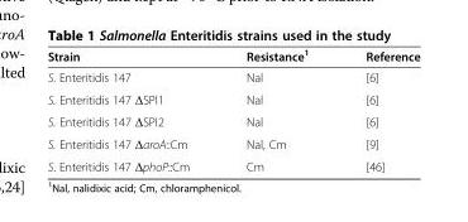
<table><thead><tr><td>Strain</td><td>Resistance<sup>1</sup></td><td>Reference</td></tr></thead><tbody><tr><td>S. Enteritidis 147</td><td>Nal</td><td>[6]</td></tr><tr><td>S. Enteritidis 147 ΔSPI1</td><td>Nal</td><td>[6]</td></tr><tr><td>S. Enteritidis 147 ΔSPI2</td><td>Nal</td><td>[6]</td></tr><tr><td>S. Enteritidis 147 ΔaroA::Cm</td><td>Nal, Cm</td><td>[9]</td></tr><tr><td>S. Enteritidis 147 ΔphoP::Cm</td><td>Cm</td><td>[46]</td></tr></tbody></table>